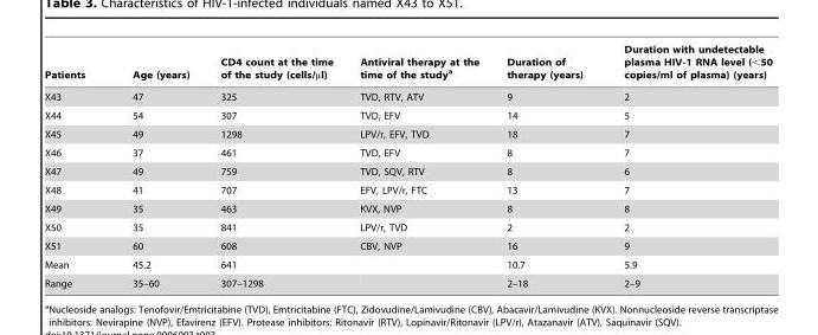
<table><thead><tr><td>Patients</td><td>Age (years)</td><td>CD4 count at the time of the study (cells/µl)</td><td>Antiviral therapy at the time of the study<sup>a</sup></td><td>Duration of therapy (years)</td><td>Duration with undetectable plasma HIV-1 RNA level (&lt;50 copies/ml of plasma) (years)</td></tr></thead><tbody><tr><td>X43</td><td>47</td><td>325</td><td>TVD, RTV, ATV</td><td>9</td><td>2</td></tr><tr><td>X44</td><td>54</td><td>307</td><td>TVD, EFV</td><td>14</td><td>5</td></tr><tr><td>X45</td><td>49</td><td>1298</td><td>LPV/r, EFV, TVD</td><td>18</td><td>7</td></tr><tr><td>X46</td><td>37</td><td>461</td><td>TVD, EFV</td><td>8</td><td>7</td></tr><tr><td>X47</td><td>49</td><td>759</td><td>TVD, SQV, RTV</td><td>8</td><td>6</td></tr><tr><td>X48</td><td>41</td><td>707</td><td>EFV, LPV/r, FTC</td><td>13</td><td>7</td></tr><tr><td>X49</td><td>35</td><td>463</td><td>KVX, NVP</td><td>8</td><td>8</td></tr><tr><td>X50</td><td>35</td><td>841</td><td>LPV/r, TVD</td><td>2</td><td>2</td></tr><tr><td>X51</td><td>60</td><td>608</td><td>CBV, NVP</td><td>16</td><td>9</td></tr><tr><td>Mean</td><td>45.2</td><td>641</td><td></td><td>10.7</td><td>5.9</td></tr><tr><td>Range</td><td>35–60</td><td>307–1298</td><td></td><td>2–18</td><td>2–9</td></tr></tbody></table>